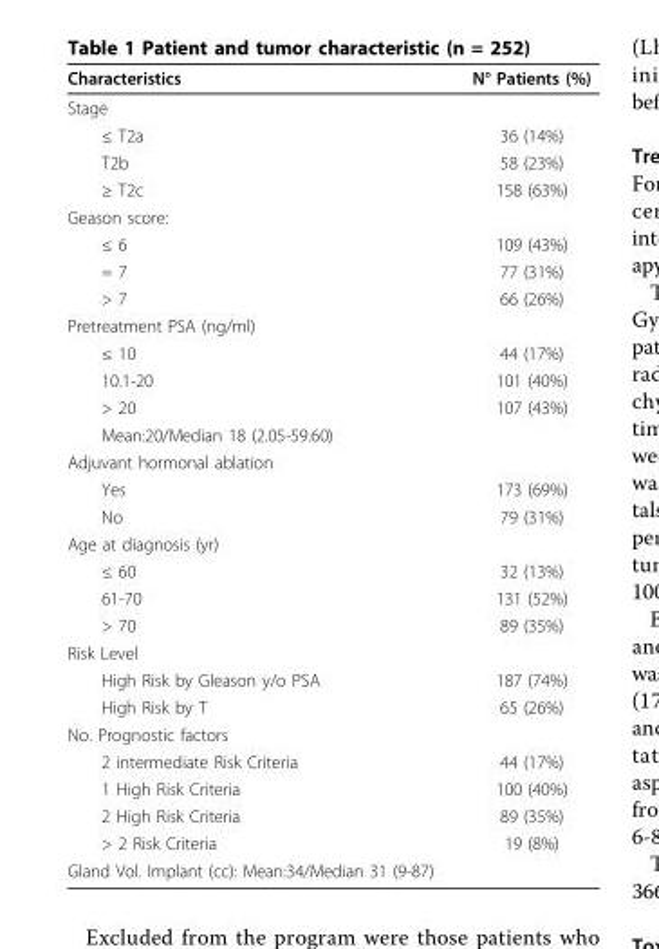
<table><thead><tr><td>Characteristics</td><td>N° Patients (%)</td></tr></thead><tbody><tr><td colspan="2">Stage</td></tr><tr><td>≤ T2a</td><td>36 (14%)</td></tr><tr><td>T2b</td><td>58 (23%)</td></tr><tr><td>≥ T2c</td><td>158 (63%)</td></tr><tr><td colspan="2">Geason score:</td></tr><tr><td>≤ 6</td><td>109 (43%)</td></tr><tr><td>= 7</td><td>77 (31%)</td></tr><tr><td>&gt; 7</td><td>66 (26%)</td></tr><tr><td colspan="2">Pretreatment PSA (ng/ml)</td></tr><tr><td>≤ 10</td><td>44 (17%)</td></tr><tr><td>10.1-20</td><td>101 (40%)</td></tr><tr><td>&gt; 20</td><td>107 (43%)</td></tr><tr><td colspan="2">Mean:20/Median 18 (2.05-59.60)</td></tr><tr><td colspan="2">Adjuvant hormonal ablation</td></tr><tr><td>Yes</td><td>173 (69%)</td></tr><tr><td>No</td><td>79 (31%)</td></tr><tr><td colspan="2">Age at diagnosis (yr)</td></tr><tr><td>≤ 60</td><td>32 (13%)</td></tr><tr><td>61-70</td><td>131 (52%)</td></tr><tr><td>&gt; 70</td><td>89 (35%)</td></tr><tr><td colspan="2">Risk Level</td></tr><tr><td>High Risk by Gleason y/o PSA</td><td>187 (74%)</td></tr><tr><td>High Risk by T</td><td>65 (26%)</td></tr><tr><td colspan="2">No. Prognostic factors</td></tr><tr><td>2 intermediate Risk Criteria</td><td>44 (17%)</td></tr><tr><td>1 High Risk Criteria</td><td>100 (40%)</td></tr><tr><td>2 High Risk Criteria</td><td>89 (35%)</td></tr><tr><td>&gt; 2 Risk Criteria</td><td>19 (8%)</td></tr><tr><td>Gland Vol. Implant (cc): Mean:34/Median 31 (9-87)</td><td></td></tr></tbody></table>